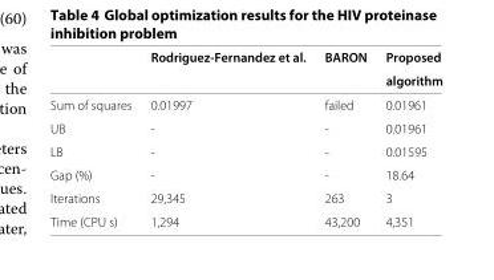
<table><thead><tr><td></td><td>Rodriguez-Fernandez et al.</td><td>BARON</td><td>Proposed algorithm</td></tr></thead><tbody><tr><td>Sum of squares</td><td>0.01997</td><td>failed</td><td>0.01961</td></tr><tr><td>UB</td><td>-</td><td>-</td><td>0.01961</td></tr><tr><td>LB</td><td>-</td><td>-</td><td>0.01595</td></tr><tr><td>Gap (%)</td><td>-</td><td>-</td><td>18.64</td></tr><tr><td>Iterations</td><td>29,345</td><td>263</td><td>3</td></tr><tr><td>Time (CPU s)</td><td>1,294</td><td>43,200</td><td>4,351</td></tr></tbody></table>